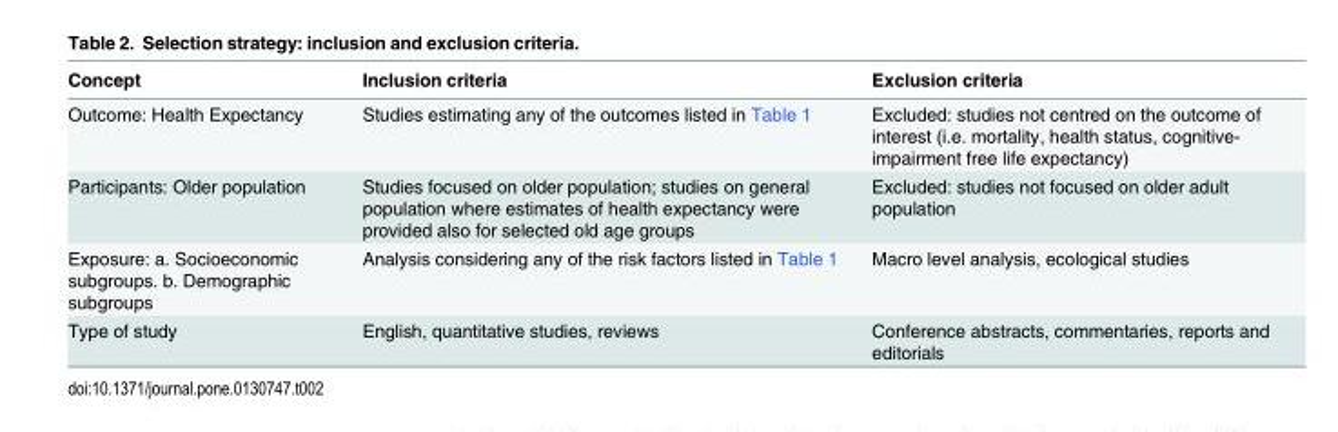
<table><thead><tr><td>Concept</td><td>Inclusion criteria</td><td>Exclusion criteria</td></tr></thead><tbody><tr><td>Outcome: Health Expectancy</td><td>Studies estimating any of the outcomes listed in Table 1</td><td>Excluded: studies not centred on the outcome of interest (i.e. mortality, health status, cognitive- impairment free life expectancy)</td></tr><tr><td>Participants: Older population</td><td>Studies focused on older population; studies on general population where estimates of health expectancy were provided also for selected old age groups</td><td>Excluded: studies not focused on older adult population</td></tr><tr><td>Exposure: a. Socioeconomic subgroups. b. Demographic subgroups</td><td>Analysis considering any of the risk factors listed in Table 1</td><td>Macro level analysis, ecological studies</td></tr><tr><td>Type of study</td><td>English, quantitative studies, reviews</td><td>Conference abstracts, commentaries, reports and editorials</td></tr></tbody></table>